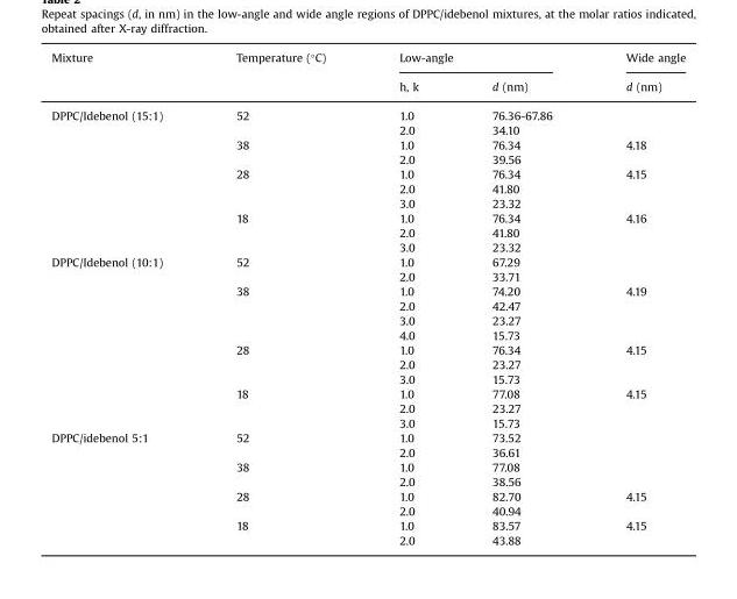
<table><thead><tr><td rowspan="2">Mixture</td><td rowspan="2">Temperature (°C)</td><td colspan="2">Low-angle</td><td rowspan="2">Wide angle d (nm)</td></tr><tr><td>h, k</td><td>d (nm)</td></tr></thead><tbody><tr><td rowspan="10">DPPC/Idebenol (15:1)</td><td>52</td><td>1.0</td><td>76.36-67.86</td><td></td></tr><tr><td></td><td>2.0</td><td>34.10</td><td></td></tr><tr><td>38</td><td>1.0</td><td>76.34</td><td>4.18</td></tr><tr><td></td><td>2.0</td><td>39.56</td><td></td></tr><tr><td>28</td><td>1.0</td><td>76.34</td><td>4.15</td></tr><tr><td></td><td>2.0</td><td>41.80</td><td></td></tr><tr><td></td><td>3.0</td><td>23.32</td><td></td></tr><tr><td>18</td><td>1.0</td><td>76.34</td><td>4.16</td></tr><tr><td></td><td>2.0</td><td>41.80</td><td></td></tr><tr><td></td><td>3.0</td><td>23.32</td><td></td></tr><tr><td rowspan="12">DPPC/Idebenol (10:1)</td><td>52</td><td>1.0</td><td>67.29</td><td></td></tr><tr><td></td><td>2.0</td><td>33.71</td><td></td></tr><tr><td>38</td><td>1.0</td><td>74.20</td><td>4.19</td></tr><tr><td></td><td>2.0</td><td>42.47</td><td></td></tr><tr><td></td><td>3.0</td><td>23.27</td><td></td></tr><tr><td></td><td>4.0</td><td>15.73</td><td></td></tr><tr><td>28</td><td>1.0</td><td>76.34</td><td>4.15</td></tr><tr><td></td><td>2.0</td><td>23.27</td><td></td></tr><tr><td></td><td>3.0</td><td>15.73</td><td></td></tr><tr><td>18</td><td>1.0</td><td>77.08</td><td>4.15</td></tr><tr><td></td><td>2.0</td><td>23.27</td><td></td></tr><tr><td></td><td>3.0</td><td>15.73</td><td></td></tr><tr><td rowspan="8">DPPC/idebenol 5:1</td><td>52</td><td>1.0</td><td>73.52</td><td></td></tr><tr><td></td><td>2.0</td><td>36.61</td><td></td></tr><tr><td>38</td><td>1.0</td><td>77.08</td><td></td></tr><tr><td></td><td>2.0</td><td>38.56</td><td></td></tr><tr><td>28</td><td>1.0</td><td>82.70</td><td>4.15</td></tr><tr><td></td><td>2.0</td><td>40.94</td><td></td></tr><tr><td>18</td><td>1.0</td><td>83.57</td><td>4.15</td></tr><tr><td></td><td>2.0</td><td>43.88</td><td></td></tr></tbody></table>